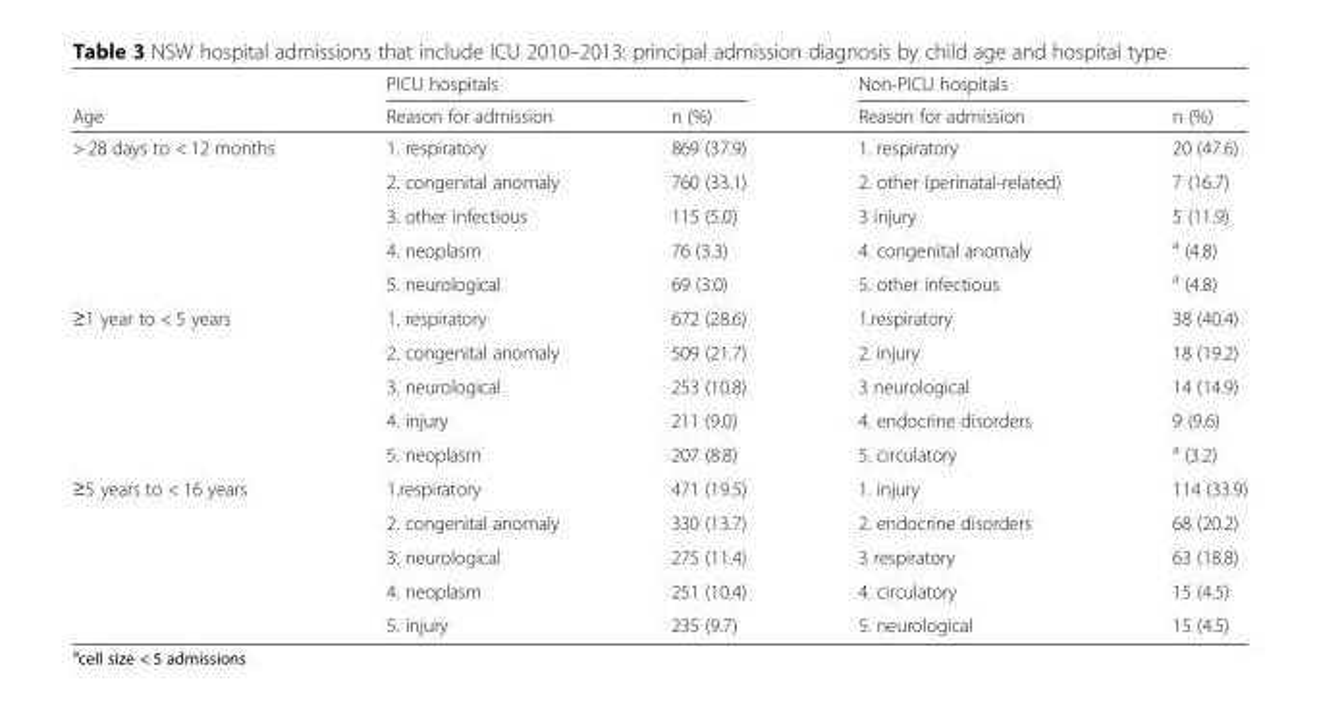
<table><thead><tr><td rowspan="2">Age</td><td colspan="2">PICU hospitals</td><td colspan="2">Non-PICU hospitals</td></tr><tr><td>Reason for admission</td><td>n (%)</td><td>Reason for admission</td><td>n (%)</td></tr></thead><tbody><tr><td rowspan="5">&gt; 28 days to &lt; 12 months</td><td>1. respiratory</td><td>869 (37.9)</td><td>1. respiratory</td><td>20 (47.6)</td></tr><tr><td>2. congenital anomaly</td><td>760 (33.1)</td><td>2. other (perinatal-related)</td><td>7 (16.7)</td></tr><tr><td>3. other infectious</td><td>115 (5.0)</td><td>3 injury</td><td>5 (11.9)</td></tr><tr><td>4. neoplasm</td><td>76 (3.3)</td><td>4. congenital anomaly</td><td><sup>a</sup> (4.8)</td></tr><tr><td>5. neurological</td><td>69 (3.0)</td><td>5. other infectious</td><td><sup>a</sup> (4.8)</td></tr><tr><td rowspan="5">≥1 year to &lt; 5 years</td><td>1. respiratory</td><td>672 (28.6)</td><td>1.respiratory</td><td>38 (40.4)</td></tr><tr><td>2. congenital anomaly</td><td>509 (21.7)</td><td>2. injury</td><td>18 (19.2)</td></tr><tr><td>3. neurological</td><td>253 (10.8)</td><td>3 neurological</td><td>14 (14.9)</td></tr><tr><td>4. injury</td><td>211 (9.0)</td><td>4. endocrine disorders</td><td>9 (9.6)</td></tr><tr><td>5. neoplasm</td><td>207 (8.8)</td><td>5. circulatory</td><td><sup>a</sup> (3.2)</td></tr><tr><td rowspan="5">≥5 years to &lt; 16 years</td><td>1.respiratory</td><td>471 (19.5)</td><td>1. injury</td><td>114 (33.9)</td></tr><tr><td>2. congenital anomaly</td><td>330 (13.7)</td><td>2. endocrine disorders</td><td>68 (20.2)</td></tr><tr><td>3. neurological</td><td>275 (11.4)</td><td>3 respiratory</td><td>63 (18.8)</td></tr><tr><td>4. neoplasm</td><td>251 (10.4)</td><td>4. circulatory</td><td>15 (4.5)</td></tr><tr><td>5. injury</td><td>235 (9.7)</td><td>5. neurological</td><td>15 (4.5)</td></tr></tbody></table>